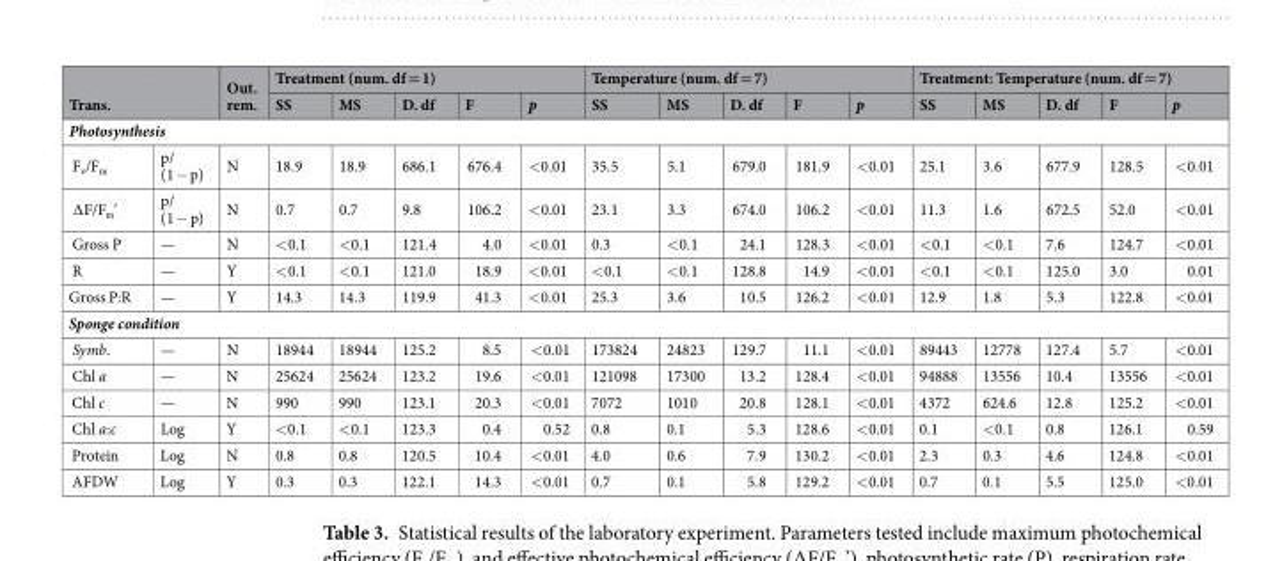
<table><thead><tr><td rowspan="2" colspan="2">Trans.</td><td rowspan="2">Out. rem.</td><td colspan="5">Treatment (num. df = 1)</td><td colspan="5">Temperature (num. df = 7)</td><td colspan="5">Treatment: Temperature (num. df = 7)</td></tr><tr><td>SS</td><td>MS</td><td>D. df</td><td>F</td><td>p</td><td>SS</td><td>MS</td><td>D. df</td><td>F</td><td>p</td><td>SS</td><td>MS</td><td>D. df</td><td>F</td><td>p</td></tr><tr><td colspan="18">Photosynthesis</td></tr><tr><td>F<sub>v</sub>/F<sub>m</sub></td><td>p/ (1 − p)</td><td>N</td><td>18.9</td><td>18.9</td><td>686.1</td><td>676.4</td><td>&lt;0.01</td><td>35.5</td><td>5.1</td><td>679.0</td><td>181.9</td><td>&lt;0.01</td><td>25.1</td><td>3.6</td><td>677.9</td><td>128.5</td><td>&lt;0.01</td></tr></thead><tbody><tr><td>∆F/F<sub>m</sub>’</td><td>p/ (1 − p)</td><td>N</td><td>0.7</td><td>0.7</td><td>9.8</td><td>106.2</td><td>&lt;0.01</td><td>23.1</td><td>3.3</td><td>674.0</td><td>106.2</td><td>&lt;0.01</td><td>11.3</td><td>1.6</td><td>672.5</td><td>52.0</td><td>&lt;0.01</td></tr><tr><td>Gross P</td><td>—</td><td>N</td><td>&lt;0.1</td><td>&lt;0.1</td><td>121.4</td><td>4.0</td><td>&lt;0.01</td><td>0.3</td><td>&lt;0.1</td><td>24.1</td><td>128.3</td><td>&lt;0.01</td><td>&lt;0.1</td><td>&lt;0.1</td><td>7.6</td><td>124.7</td><td>&lt;0.01</td></tr><tr><td>R</td><td>—</td><td>Y</td><td>&lt;0.1</td><td>&lt;0.1</td><td>121.0</td><td>18.9</td><td>&lt;0.01</td><td>&lt;0.1</td><td>&lt;0.1</td><td>128.8</td><td>14.9</td><td>&lt;0.01</td><td>&lt;0.1</td><td>&lt;0.1</td><td>125.0</td><td>3.0</td><td>0.01</td></tr><tr><td>Gross P:R</td><td>—</td><td>Y</td><td>14.3</td><td>14.3</td><td>119.9</td><td>41.3</td><td>&lt;0.01</td><td>25.3</td><td>3.6</td><td>10.5</td><td>126.2</td><td>&lt;0.01</td><td>12.9</td><td>1.8</td><td>5.3</td><td>122.8</td><td>&lt;0.01</td></tr><tr><td colspan="18">Sponge condition</td></tr><tr><td>Symb.</td><td>—</td><td>N</td><td>18944</td><td>18944</td><td>125.2</td><td>8.5</td><td>&lt;0.01</td><td>173824</td><td>24823</td><td>129.7</td><td>11.1</td><td>&lt;0.01</td><td>89443</td><td>12778</td><td>127.4</td><td>5.7</td><td>&lt;0.01</td></tr><tr><td>Chl a</td><td>—</td><td>N</td><td>25624</td><td>25624</td><td>123.2</td><td>19.6</td><td>&lt;0.01</td><td>121098</td><td>17300</td><td>13.2</td><td>128.4</td><td>&lt;0.01</td><td>94888</td><td>13556</td><td>10.4</td><td>13556</td><td>&lt;0.01</td></tr><tr><td>Chl c</td><td>—</td><td>N</td><td>990</td><td>990</td><td>123.1</td><td>20.3</td><td>&lt;0.01</td><td>7072</td><td>1010</td><td>20.8</td><td>128.1</td><td>&lt;0.01</td><td>4372</td><td>624.6</td><td>12.8</td><td>125.2</td><td>&lt;0.01</td></tr><tr><td>Chl a:c</td><td>Log</td><td>Y</td><td>&lt;0.1</td><td>&lt;0.1</td><td>123.3</td><td>0.4</td><td>0.52</td><td>0.8</td><td>0.1</td><td>5.3</td><td>128.6</td><td>&lt;0.01</td><td>0.1</td><td>&lt;0.1</td><td>0.8</td><td>126.1</td><td>0.59</td></tr><tr><td>Protein</td><td>Log</td><td>N</td><td>0.8</td><td>0.8</td><td>120.5</td><td>10.4</td><td>&lt;0.01</td><td>4.0</td><td>0.6</td><td>7.9</td><td>130.2</td><td>&lt;0.01</td><td>2.3</td><td>0.3</td><td>4.6</td><td>124.8</td><td>&lt;0.01</td></tr><tr><td>AFDW</td><td>Log</td><td>Y</td><td>0.3</td><td>0.3</td><td>122.1</td><td>14.3</td><td>&lt;0.01</td><td>0.7</td><td>0.1</td><td>5.8</td><td>129.2</td><td>&lt;0.01</td><td>0.7</td><td>0.1</td><td>5.5</td><td>125.0</td><td>&lt;0.01</td></tr></tbody></table>